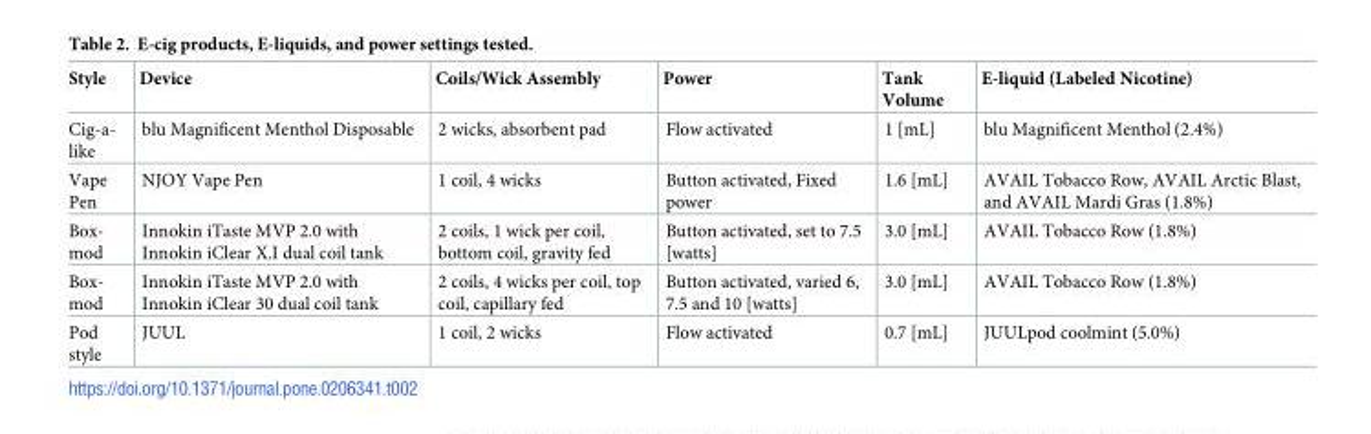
<table><thead><tr><td>Style</td><td>Device</td><td>Coils/Wick Assembly</td><td>Power</td><td>Tank Volume</td><td>E-liquid (Labeled Nicotine)</td></tr></thead><tbody><tr><td>Cig-a- like</td><td>blu Magnificent Menthol Disposable</td><td>2 wicks, absorbent pad</td><td>Flow activated</td><td>1 [mL]</td><td>blu Magnificent Menthol (2.4%)</td></tr><tr><td>Vape Pen</td><td>NJOY Vape Pen</td><td>1 coil, 4 wicks</td><td>Button activated, Fixed power</td><td>1.6 [mL]</td><td>AVAIL Tobacco Row, AVAIL Arctic Blast, and AVAIL Mardi Gras (1.8%)</td></tr><tr><td>Box- mod</td><td>Innokin iTaste MVP 2.0 with Innokin iClear X.I dual coil tank</td><td>2 coils, 1 wick per coil, bottom coil, gravity fed</td><td>Button activated, set to 7.5 [watts]</td><td>3.0 [mL]</td><td>AVAIL Tobacco Row (1.8%)</td></tr><tr><td>Box- mod</td><td>Innokin iTaste MVP 2.0 with Innokin iClear 30 dual coil tank</td><td>2 coils, 4 wicks per coil, top coil, capillary fed</td><td>Button activated, varied 6, 7.5 and 10 [watts]</td><td>3.0 [mL]</td><td>AVAIL Tobacco Row (1.8%)</td></tr><tr><td>Pod style</td><td>JUUL</td><td>1 coil, 2 wicks</td><td>Flow activated</td><td>0.7 [mL]</td><td>JUULpod coolmint (5.0%)</td></tr></tbody></table>